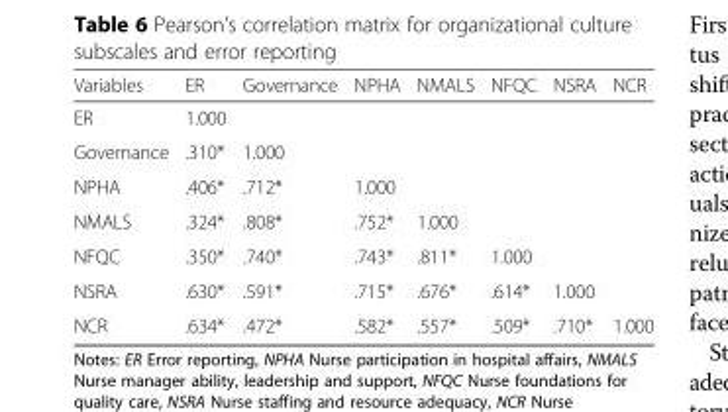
<table><thead><tr><td>Variables</td><td>ER</td><td>Governance</td><td>NPHA</td><td>NMALS</td><td>NFQC</td><td>NSRA</td><td>NCR</td></tr></thead><tbody><tr><td>ER</td><td>1.000</td><td></td><td></td><td></td><td></td><td></td><td></td></tr><tr><td>Governance</td><td>.310*</td><td>1.000</td><td></td><td></td><td></td><td></td><td></td></tr><tr><td>NPHA</td><td>.406*</td><td>.712*</td><td>1.000</td><td></td><td></td><td></td><td></td></tr><tr><td>NMALS</td><td>.324*</td><td>.808*</td><td>.752*</td><td>1.000</td><td></td><td></td><td></td></tr><tr><td>NFQC</td><td>.350*</td><td>.740*</td><td>.743*</td><td>.811*</td><td>1.000</td><td></td><td></td></tr><tr><td>NSRA</td><td>.630*</td><td>.591*</td><td>.715*</td><td>.676*</td><td>.614*</td><td>1.000</td><td></td></tr><tr><td>NCR</td><td>.634*</td><td>.472*</td><td>.582*</td><td>.557*</td><td>.509*</td><td>.710*</td><td>1.000</td></tr></tbody></table>